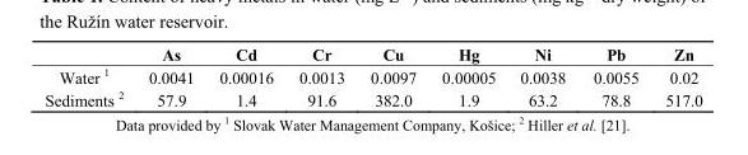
<table><thead><tr><td></td><td>As</td><td>Cd</td><td>Cr</td><td>Cu</td><td>Hg</td><td>Ni</td><td>Pb</td><td>Zn</td></tr></thead><tbody><tr><td>Water <sup>1</sup></td><td>0.0041</td><td>0.00016</td><td>0.0013</td><td>0.0097</td><td>0.00005</td><td>0.0038</td><td>0.0055</td><td>0.02</td></tr><tr><td>Sediments <sup>2</sup></td><td>57.9</td><td>1.4</td><td>91.6</td><td>382.0</td><td>1.9</td><td>63.2</td><td>78.8</td><td>517.0</td></tr></tbody></table>